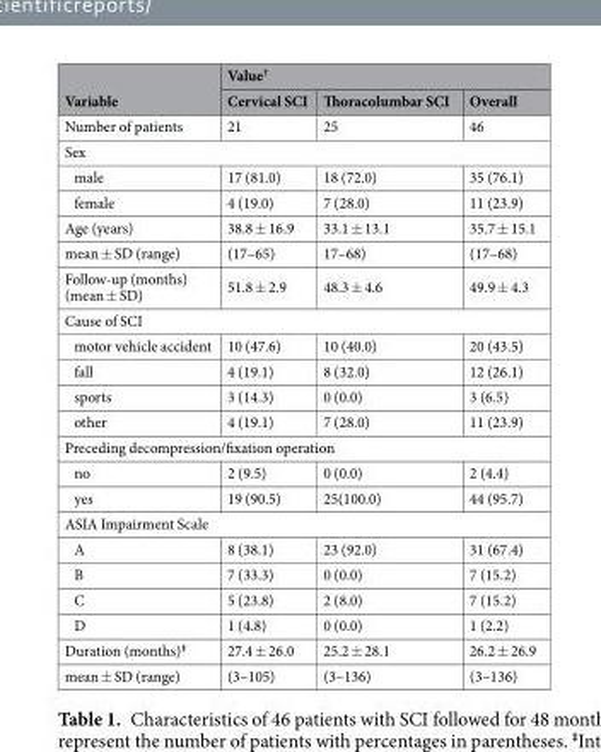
<table><thead><tr><td rowspan="2">Variable</td><td colspan="3">Value<sup>†</sup></td></tr><tr><td>Cervical SCI</td><td>Thoracolumbar SCI</td><td>Overall</td></tr></thead><tbody><tr><td>Number of patients</td><td>21</td><td>25</td><td>46</td></tr><tr><td colspan="4">Sex</td></tr><tr><td>male</td><td>17 (81.0)</td><td>18 (72.0)</td><td>35 (76.1)</td></tr><tr><td>female</td><td>4 (19.0)</td><td>7 (28.0)</td><td>11 (23.9)</td></tr><tr><td>Age (years)</td><td>38.8 ± 16.9</td><td>33.1 ± 13.1</td><td>35.7 ± 15.1</td></tr><tr><td>mean ± SD (range)</td><td>(17–65)</td><td>17–68)</td><td>(17–68)</td></tr><tr><td>Follow-up (months) (mean ± SD)</td><td>51.8 ± 2.9</td><td>48.3 ± 4.6</td><td>49.9 ± 4.3</td></tr><tr><td colspan="4">Cause of SCI</td></tr><tr><td>motor vehicle accident</td><td>10 (47.6)</td><td>10 (40.0)</td><td>20 (43.5)</td></tr><tr><td>fall</td><td>4 (19.1)</td><td>8 (32.0)</td><td>12 (26.1)</td></tr><tr><td>sports</td><td>3 (14.3)</td><td>0 (0.0)</td><td>3 (6.5)</td></tr><tr><td>other</td><td>4 (19.1)</td><td>7 (28.0)</td><td>11 (23.9)</td></tr><tr><td colspan="4">Preceding decompression/fixation operation</td></tr><tr><td>no</td><td>2 (9.5)</td><td>0 (0.0)</td><td>2 (4.4)</td></tr><tr><td>yes</td><td>19 (90.5)</td><td>25(100.0)</td><td>44 (95.7)</td></tr><tr><td colspan="4">ASIA Impairment Scale</td></tr><tr><td>A</td><td>8 (38.1)</td><td>23 (92.0)</td><td>31 (67.4)</td></tr><tr><td>B</td><td>7 (33.3)</td><td>0 (0.0)</td><td>7 (15.2)</td></tr><tr><td>C</td><td>5 (23.8)</td><td>2 (8.0)</td><td>7 (15.2)</td></tr><tr><td>D</td><td>1 (4.8)</td><td>0 (0.0)</td><td>1 (2.2)</td></tr><tr><td>Duration (months)<sup>‡</sup></td><td>27.4 ± 26.0</td><td>25.2 ± 28.1</td><td>26.2 ± 26.9</td></tr><tr><td>mean ± SD (range)</td><td>(3–105)</td><td>(3–136)</td><td>(3–136)</td></tr></tbody></table>